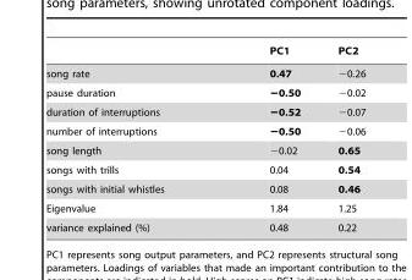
<table><thead><tr><td></td><td>PC1</td><td>PC2</td></tr></thead><tbody><tr><td>song rate</td><td>0.47</td><td>−0.26</td></tr><tr><td>pause duration</td><td>−0.50</td><td>−0.02</td></tr><tr><td>duration of interruptions</td><td>−0.52</td><td>−0.07</td></tr><tr><td>number of interruptions</td><td>−0.50</td><td>−0.06</td></tr><tr><td>song length</td><td>−0.02</td><td>0.65</td></tr><tr><td>songs with trills</td><td>0.04</td><td>0.54</td></tr><tr><td>songs with initial whistles</td><td>0.08</td><td>0.46</td></tr><tr><td>Eigenvalue</td><td>1.84</td><td>1.25</td></tr><tr><td>variance explained (%)</td><td>0.48</td><td>0.22</td></tr></tbody></table>